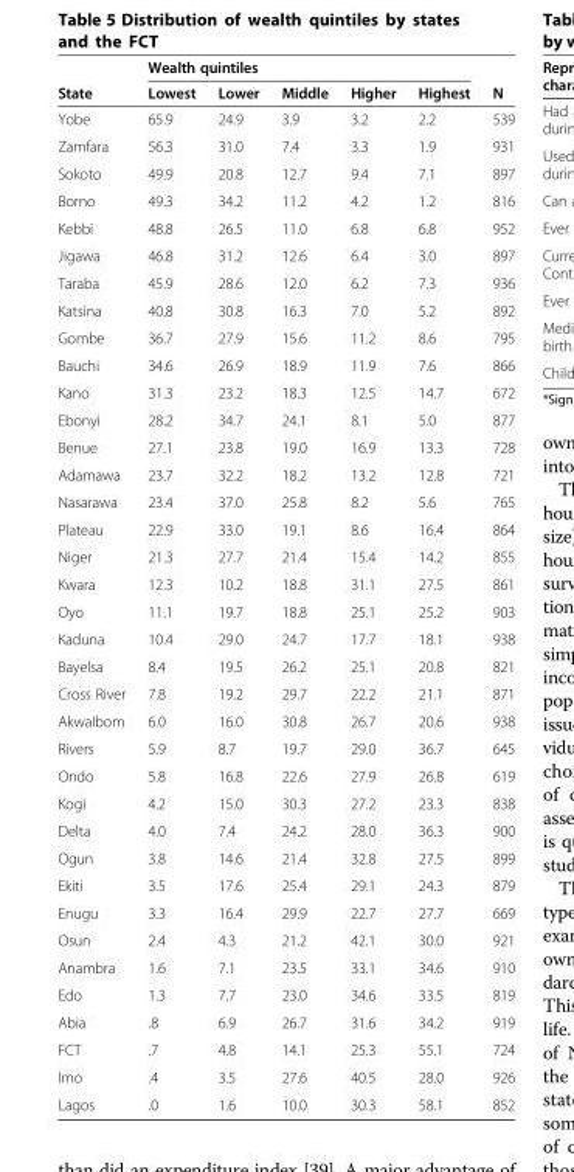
<table><thead><tr><td rowspan="2">State</td><td colspan="5">Wealth quintiles</td><td rowspan="2">N</td></tr><tr><td>Lowest</td><td>Lower</td><td>Middle</td><td>Higher</td><td>Highest</td></tr></thead><tbody><tr><td>Yobe</td><td>65.9</td><td>24.9</td><td>3.9</td><td>3.2</td><td>2.2</td><td>539</td></tr><tr><td>Zamfara</td><td>56.3</td><td>31.0</td><td>7.4</td><td>3.3</td><td>1.9</td><td>931</td></tr><tr><td>Sokoto</td><td>49.9</td><td>20.8</td><td>12.7</td><td>9.4</td><td>7.1</td><td>897</td></tr><tr><td>Borno</td><td>49.3</td><td>34.2</td><td>11.2</td><td>4.2</td><td>1.2</td><td>816</td></tr><tr><td>Kebbi</td><td>48.8</td><td>26.5</td><td>11.0</td><td>6.8</td><td>6.8</td><td>952</td></tr><tr><td>Jigawa</td><td>46.8</td><td>31.2</td><td>12.6</td><td>6.4</td><td>3.0</td><td>897</td></tr><tr><td>Taraba</td><td>45.9</td><td>28.6</td><td>12.0</td><td>6.2</td><td>7.3</td><td>936</td></tr><tr><td>Katsina</td><td>40.8</td><td>30.8</td><td>16.3</td><td>7.0</td><td>5.2</td><td>892</td></tr><tr><td>Gombe</td><td>36.7</td><td>27.9</td><td>15.6</td><td>11.2</td><td>8.6</td><td>795</td></tr><tr><td>Bauchi</td><td>34.6</td><td>26.9</td><td>18.9</td><td>11.9</td><td>7.6</td><td>866</td></tr><tr><td>Kano</td><td>31.3</td><td>23.2</td><td>18.3</td><td>12.5</td><td>14.7</td><td>672</td></tr><tr><td>Ebonyi</td><td>28.2</td><td>34.7</td><td>24.1</td><td>8.1</td><td>5.0</td><td>877</td></tr><tr><td>Benue</td><td>27.1</td><td>23.8</td><td>19.0</td><td>16.9</td><td>13.3</td><td>728</td></tr><tr><td>Adamawa</td><td>23.7</td><td>32.2</td><td>18.2</td><td>13.2</td><td>12.8</td><td>721</td></tr><tr><td>Nasarawa</td><td>23.4</td><td>37.0</td><td>25.8</td><td>8.2</td><td>5.6</td><td>765</td></tr><tr><td>Plateau</td><td>22.9</td><td>33.0</td><td>19.1</td><td>8.6</td><td>16.4</td><td>864</td></tr><tr><td>Niger</td><td>21.3</td><td>27.7</td><td>21.4</td><td>15.4</td><td>14.2</td><td>855</td></tr><tr><td>Kwara</td><td>12.3</td><td>10.2</td><td>18.8</td><td>31.1</td><td>27.5</td><td>861</td></tr><tr><td>Oyo</td><td>11.1</td><td>19.7</td><td>18.8</td><td>25.1</td><td>25.2</td><td>903</td></tr><tr><td>Kaduna</td><td>10.4</td><td>29.0</td><td>24.7</td><td>17.7</td><td>18.1</td><td>938</td></tr><tr><td>Bayelsa</td><td>8.4</td><td>19.5</td><td>26.2</td><td>25.1</td><td>20.8</td><td>821</td></tr><tr><td>Cross River</td><td>7.8</td><td>19.2</td><td>29.7</td><td>22.2</td><td>21.1</td><td>871</td></tr><tr><td>AkwaIbom</td><td>6.0</td><td>16.0</td><td>30.8</td><td>26.7</td><td>20.6</td><td>938</td></tr><tr><td>Rivers</td><td>5.9</td><td>8.7</td><td>19.7</td><td>29.0</td><td>36.7</td><td>645</td></tr><tr><td>Ondo</td><td>5.8</td><td>16.8</td><td>22.6</td><td>27.9</td><td>26.8</td><td>619</td></tr><tr><td>Kogi</td><td>4.2</td><td>15.0</td><td>30.3</td><td>27.2</td><td>23.3</td><td>838</td></tr><tr><td>Delta</td><td>4.0</td><td>7.4</td><td>24.2</td><td>28.0</td><td>36.3</td><td>900</td></tr><tr><td>Ogun</td><td>3.8</td><td>14.6</td><td>21.4</td><td>32.8</td><td>27.5</td><td>899</td></tr><tr><td>Ekiti</td><td>3.5</td><td>17.6</td><td>25.4</td><td>29.1</td><td>24.3</td><td>879</td></tr><tr><td>Enugu</td><td>3.3</td><td>16.4</td><td>29.9</td><td>22.7</td><td>27.7</td><td>669</td></tr><tr><td>Osun</td><td>2.4</td><td>4.3</td><td>21.2</td><td>42.1</td><td>30.0</td><td>921</td></tr><tr><td>Anambra</td><td>1.6</td><td>7.1</td><td>23.5</td><td>33.1</td><td>34.6</td><td>910</td></tr><tr><td>Edo</td><td>1.3</td><td>7.7</td><td>23.0</td><td>34.6</td><td>33.5</td><td>819</td></tr><tr><td>Abia</td><td>.8</td><td>6.9</td><td>26.7</td><td>31.6</td><td>34.2</td><td>919</td></tr><tr><td>FCT</td><td>.7</td><td>4.8</td><td>14.1</td><td>25.3</td><td>55.1</td><td>724</td></tr><tr><td>Imo</td><td>.4</td><td>3.5</td><td>27.6</td><td>40.5</td><td>28.0</td><td>926</td></tr><tr><td>Lagos</td><td>.0</td><td>1.6</td><td>10.0</td><td>30.3</td><td>58.1</td><td>852</td></tr></tbody></table>